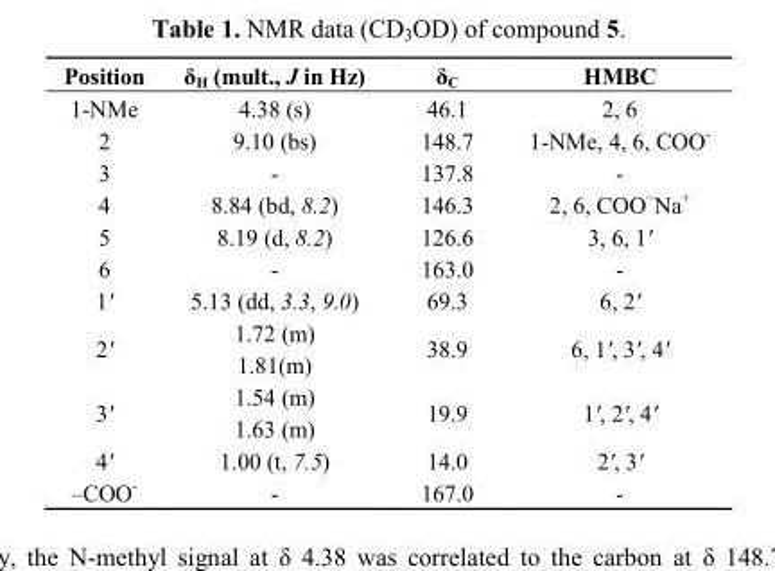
<table><thead><tr><td>Position</td><td>δ<sub>H</sub> (mult., J in Hz)</td><td>δ<sub>C</sub></td><td>HMBC</td></tr></thead><tbody><tr><td>1-NMe</td><td>4.38 (s)</td><td>46.1</td><td>2, 6</td></tr><tr><td>2</td><td>9.10 (bs)</td><td>148.7</td><td>1-NMe, 4, 6, COO<sup>-</sup></td></tr><tr><td>3</td><td>-</td><td>137.8</td><td>-</td></tr><tr><td>4</td><td>8.84 (bd, 8.2)</td><td>146.3</td><td>2, 6, COO<sup>−</sup>Na<sup>+</sup></td></tr><tr><td>5</td><td>8.19 (d, 8.2)</td><td>126.6</td><td>3, 6, 1′</td></tr><tr><td>6</td><td>-</td><td>163.0</td><td>-</td></tr><tr><td>1′</td><td>5.13 (dd, 3.3, 9.0)</td><td>69.3</td><td>6, 2′</td></tr><tr><td rowspan="2">2′</td><td>1.72 (m)</td><td rowspan="2">38.9</td><td rowspan="2">6, 1′, 3′, 4′</td></tr><tr><td>1.81(m)</td></tr><tr><td rowspan="2">3′</td><td>1.54 (m)</td><td rowspan="2">19.9</td><td rowspan="2">1′, 2′, 4′</td></tr><tr><td>1.63 (m)</td></tr><tr><td>4′</td><td>1.00 (t, 7.5)</td><td>14.0</td><td>2′, 3′</td></tr><tr><td>–COO<sup>-</sup></td><td>-</td><td>167.0</td><td>-</td></tr></tbody></table>